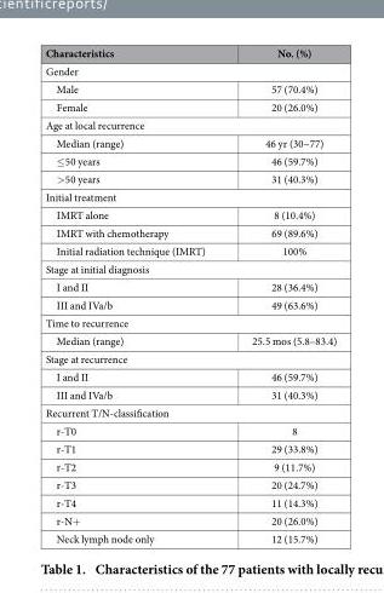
<table><thead><tr><td>Characteristics</td><td>No. (%)</td></tr></thead><tbody><tr><td colspan="2">Gender</td></tr><tr><td>Male</td><td>57 (70.4%)</td></tr><tr><td>Female</td><td>20 (26.0%)</td></tr><tr><td colspan="2">Age at local recurrence</td></tr><tr><td>Median (range)</td><td>46 yr (30~77)</td></tr><tr><td>≤ 50 years</td><td>46 (59.7%)</td></tr><tr><td>&gt; 50 years</td><td>31 (40.3%)</td></tr><tr><td colspan="2">Initial treatment</td></tr><tr><td>IMRT alone</td><td>8 (10.4%)</td></tr><tr><td>IMRT with chemotherapy</td><td>69 (89.6%)</td></tr><tr><td>Initial radiation technique (IMRT)</td><td>100%</td></tr><tr><td colspan="2">Stage at initial diagnosis</td></tr><tr><td>I and II</td><td>28 (36.4%)</td></tr><tr><td>III and IVa/b</td><td>49 (63.6%)</td></tr><tr><td colspan="2">Time to recurrence</td></tr><tr><td>Median (range)</td><td>25.5 mos (5.8–83.4)</td></tr><tr><td colspan="2">Stage at recurrence</td></tr><tr><td>I and II</td><td>46 (59.7%)</td></tr><tr><td>III and IVa/b</td><td>31 (40.3%)</td></tr><tr><td colspan="2">Recurrent T/N-classification</td></tr><tr><td>r-T0</td><td>8</td></tr><tr><td>r-T1</td><td>29 (33.8%)</td></tr><tr><td>r-T2</td><td>9 (11.7%)</td></tr><tr><td>r-T3</td><td>20 (24.7%)</td></tr><tr><td>r-T4</td><td>11 (14.3%)</td></tr><tr><td>r-N+</td><td>20 (26.0%)</td></tr><tr><td>Neck lymph node only</td><td>12 (15.7%)</td></tr></tbody></table>